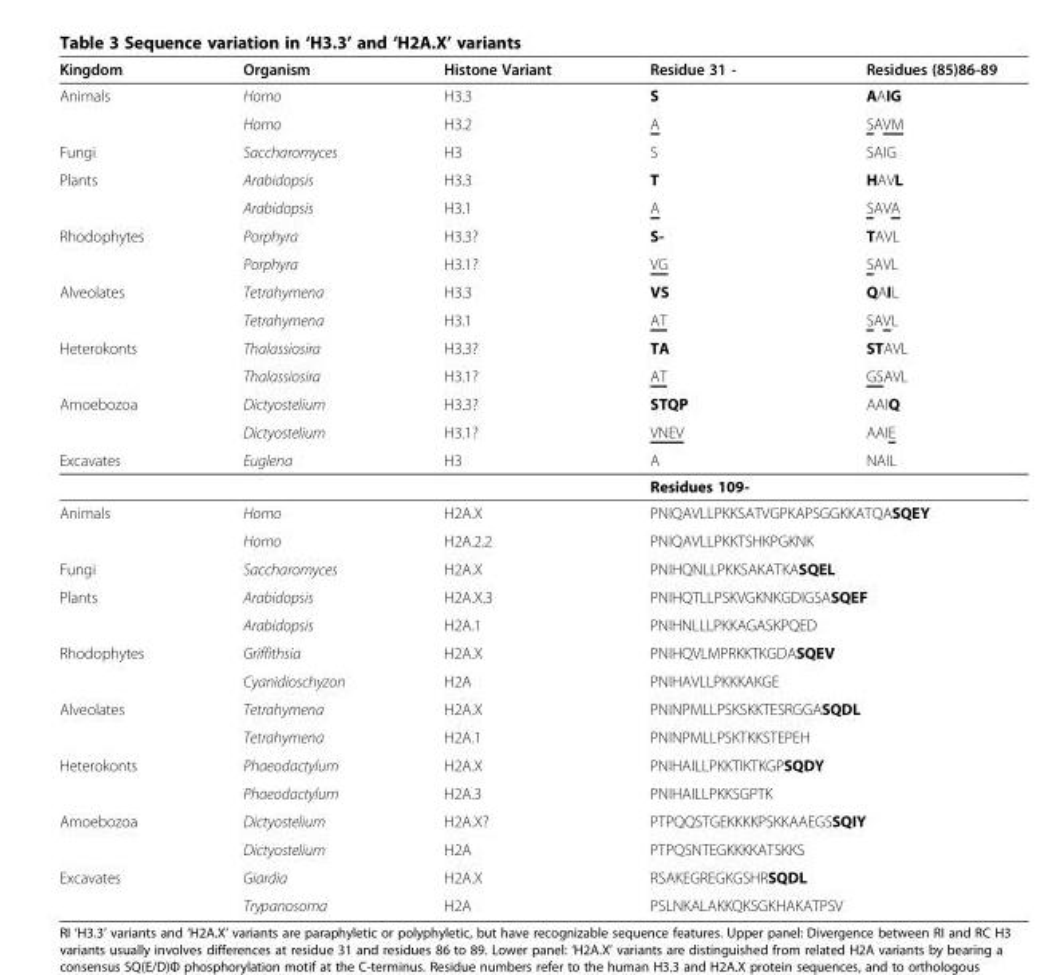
<table><thead><tr><td>Kingdom</td><td>Organism</td><td>Histone Variant</td><td>Residue 31 -</td><td>Residues (85)86-89</td></tr></thead><tbody><tr><td rowspan="2">Animals</td><td>Homo</td><td>H3.3</td><td>S</td><td>AAIG</td></tr><tr><td>Homo</td><td>H3.2</td><td>A</td><td>SAVM</td></tr><tr><td>Fungi</td><td>Saccharomyces</td><td>H3</td><td>S</td><td>SAIG</td></tr><tr><td rowspan="2">Plants</td><td>Arabidopsis</td><td>H3.3</td><td>T</td><td>HAVL</td></tr><tr><td>Arabidopsis</td><td>H3.1</td><td>A</td><td>SAVA</td></tr><tr><td rowspan="2">Rhodophytes</td><td>Porphyra</td><td>H3.3?</td><td>S-</td><td>TAVL</td></tr><tr><td>Porphyra</td><td>H3.1?</td><td>VG</td><td>SAVL</td></tr><tr><td rowspan="2">Alveolates</td><td>Tetrahymena</td><td>H3.3</td><td>VS</td><td>QAIL</td></tr><tr><td>Tetrahymena</td><td>H3.1</td><td>AT</td><td>SAVL</td></tr><tr><td rowspan="2">Heterokonts</td><td>Thalassiosira</td><td>H3.3?</td><td>TA</td><td>STAVL</td></tr><tr><td>Thalassiosira</td><td>H3.1?</td><td>AT</td><td>GSAVL</td></tr><tr><td rowspan="2">Amoebozoa</td><td>Dictyostelium</td><td>H3.3?</td><td>STQP</td><td>AAIQ</td></tr><tr><td>Dictyostelium</td><td>H3.1?</td><td>VNEV</td><td>AAIE</td></tr><tr><td rowspan="2">Excavates</td><td>Euglena</td><td>H3</td><td>A</td><td>NAIL</td></tr><tr><td></td><td></td><td colspan="2">Residues 109-</td></tr><tr><td rowspan="2">Animals</td><td>Homo</td><td>H2A.X</td><td colspan="2">PNIQAVLLPKKSATVGPKAPSGGKKATQASQEY</td></tr><tr><td>Homo</td><td>H2A.2.2</td><td colspan="2">PNIQAVLLPKKTSHKPGKNK</td></tr><tr><td>Fungi</td><td>Saccharomyces</td><td>H2A.X</td><td colspan="2">PNIHQNLLPKKSAKATKASQEL</td></tr><tr><td rowspan="2">Plants</td><td>Arabidopsis</td><td>H2A.X.3</td><td colspan="2">PNIHQTLLPSKVGKNKGDIGSASQEF</td></tr><tr><td>Arabidopsis</td><td>H2A.1</td><td colspan="2">PNIHNLLLPKKAGASKPQED</td></tr><tr><td rowspan="2">Rhodophytes</td><td>Griffithsia</td><td>H2A.X</td><td colspan="2">PNIHQVLMPRKKTKGDASQEV</td></tr><tr><td>Cyanidioschyzon</td><td>H2A</td><td colspan="2">PNIHAVLLPKKKAKGE</td></tr><tr><td rowspan="2">Alveolates</td><td>Tetrahymena</td><td>H2A.X</td><td colspan="2">PNINPMLLPSKSKKTESRGGASQDL</td></tr><tr><td>Tetrahymena</td><td>H2A.1</td><td colspan="2">PNINPMLLPSKTKKSTEPEH</td></tr><tr><td rowspan="2">Heterokonts</td><td>Phaeodactylum</td><td>H2A.X</td><td colspan="2">PNIHAILLPKKTIKTKGPSQDY</td></tr><tr><td>Phaeodactylum</td><td>H2A.3</td><td colspan="2">PNIHAILLPKKSGPTK</td></tr><tr><td rowspan="2">Amoebozoa</td><td>Dictyostelium</td><td>H2A.X?</td><td colspan="2">PTPQQSTGEKKKKPSKKAAEGSSQIY</td></tr><tr><td>Dictyostelium</td><td>H2A</td><td colspan="2">PTPQSNTEGKKKKATSKKS</td></tr><tr><td rowspan="2">Excavates</td><td>Giardia</td><td>H2A.X</td><td colspan="2">RSAKEGREGKGSHRSQDL</td></tr><tr><td>Trypanosoma</td><td>H2A</td><td colspan="2">PSLNKALAKKQKSGKHAKATPSV</td></tr></tbody></table>